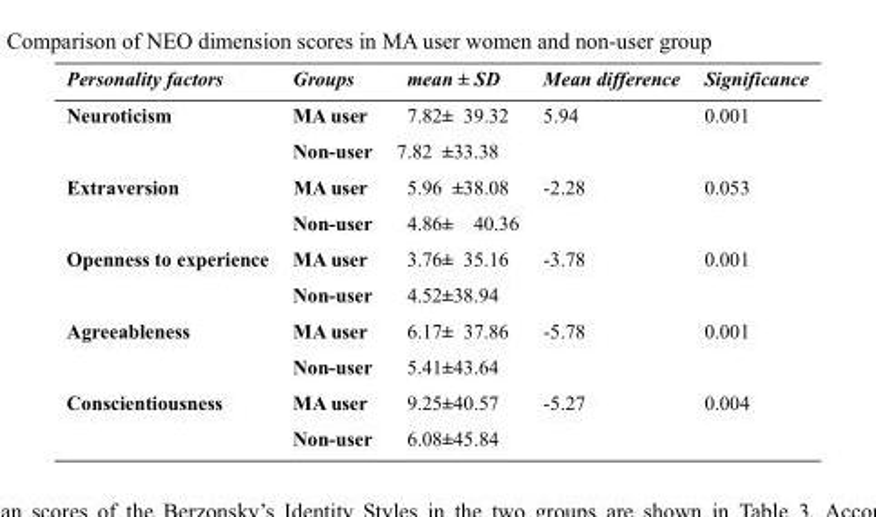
<table><thead><tr><td>Personality factors</td><td>Groups</td><td>mean ± SD</td><td>Mean difference</td><td>Significance</td></tr></thead><tbody><tr><td rowspan="2">Neuroticism</td><td>MA user</td><td>7.82± 39.32</td><td>5.94</td><td>0.001</td></tr><tr><td>Non-user</td><td>7.82 ±33.38</td><td></td><td></td></tr><tr><td rowspan="2">Extraversion</td><td>MA user</td><td>5.96 ±38.08</td><td>-2.28</td><td>0.053</td></tr><tr><td>Non-user</td><td>4.86± 40.36</td><td></td><td></td></tr><tr><td rowspan="2">Openness to experience</td><td>MA user</td><td>3.76± 35.16</td><td>-3.78</td><td>0.001</td></tr><tr><td>Non-user</td><td>4.52±38.94</td><td></td><td></td></tr><tr><td rowspan="2">Agreeableness</td><td>MA user</td><td>6.17± 37.86</td><td>-5.78</td><td>0.001</td></tr><tr><td>Non-user</td><td>5.41±43.64</td><td></td><td></td></tr><tr><td rowspan="2">Conscientiousness</td><td>MA user</td><td>9.25±40.57</td><td>-5.27</td><td>0.004</td></tr><tr><td>Non-user</td><td>6.08±45.84</td><td></td><td></td></tr></tbody></table>